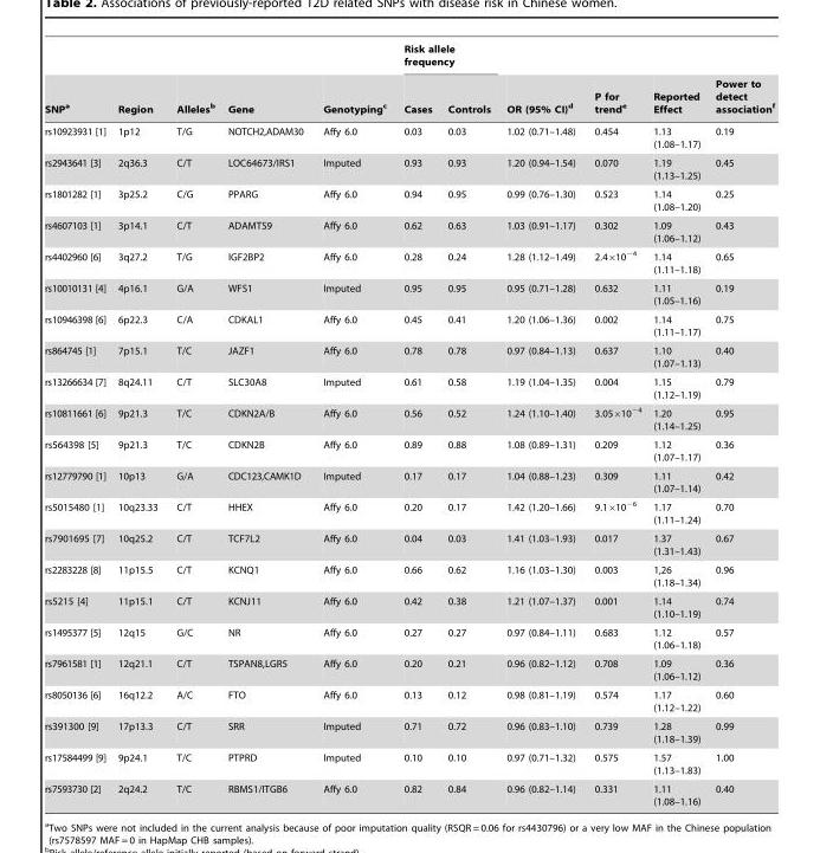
<table><thead><tr><td rowspan="2">SNP<sup>a</sup></td><td rowspan="2">Region</td><td rowspan="2">Alleles<sup>b</sup></td><td rowspan="2">Gene</td><td rowspan="2">Genotyping<sup>c</sup></td><td colspan="2">Risk allele frequency</td><td rowspan="2">OR (95% CI)<sup>d</sup></td><td rowspan="2">P for trend<sup>e</sup></td><td rowspan="2">Reported Effect</td><td rowspan="2">Power to detect association<sup>f</sup></td></tr><tr><td>Cases</td><td>Controls</td></tr></thead><tbody><tr><td>rs10923931 [1]</td><td>1p12</td><td>T/G</td><td>NOTCH2,ADAM30</td><td>Affy 6.0</td><td>0.03</td><td>0.03</td><td>1.02 (0.71–1.48)</td><td>0.454</td><td>1.13 (1.08–1.17)</td><td>0.19</td></tr><tr><td>rs2943641 [3]</td><td>2q36.3</td><td>C/T</td><td>LOC64673/IRS1</td><td>Imputed</td><td>0.93</td><td>0.93</td><td>1.20 (0.94–1.54)</td><td>0.070</td><td>1.19 (1.13–1.25)</td><td>0.45</td></tr><tr><td>rs1801282 [1]</td><td>3p25.2</td><td>C/G</td><td>PPARG</td><td>Affy 6.0</td><td>0.94</td><td>0.95</td><td>0.99 (0.76–1.30)</td><td>0.523</td><td>1.14 (1.08–1.20)</td><td>0.25</td></tr><tr><td>rs4607103 [1]</td><td>3p14.1</td><td>C/T</td><td>ADAMTS9</td><td>Affy 6.0</td><td>0.62</td><td>0.63</td><td>1.03 (0.91–1.17)</td><td>0.302</td><td>1.09 (1.06–1.12)</td><td>0.43</td></tr><tr><td>rs4402960 [6]</td><td>3q27.2</td><td>T/G</td><td>IGF2BP2</td><td>Affy 6.0</td><td>0.28</td><td>0.24</td><td>1.28 (1.12–1.49)</td><td>2.4×10<sup>−4</sup></td><td>1.14 (1.11–1.18)</td><td>0.65</td></tr><tr><td>rs10010131 [4]</td><td>4p16.1</td><td>G/A</td><td>WFS1</td><td>Imputed</td><td>0.95</td><td>0.95</td><td>0.95 (0.71–1.28)</td><td>0.632</td><td>1.11 (1.05–1.16)</td><td>0.19</td></tr><tr><td>rs10946398 [6]</td><td>6p22.3</td><td>C/A</td><td>CDKAL1</td><td>Affy 6.0</td><td>0.45</td><td>0.41</td><td>1.20 (1.06–1.36)</td><td>0.002</td><td>1.14 (1.11–1.17)</td><td>0.75</td></tr><tr><td>rs864745 [1]</td><td>7p15.1</td><td>T/C</td><td>JAZF1</td><td>Affy 6.0</td><td>0.78</td><td>0.78</td><td>0.97 (0.84–1.13)</td><td>0.637</td><td>1.10 (1.07–1.13)</td><td>0.40</td></tr><tr><td>rs13266634 [7]</td><td>8q24.11</td><td>C/T</td><td>SLC30A8</td><td>Imputed</td><td>0.61</td><td>0.58</td><td>1.19 (1.04–1.35)</td><td>0.004</td><td>1.15 (1.12–1.19)</td><td>0.79</td></tr><tr><td>rs10811661 [6]</td><td>9p21.3</td><td>T/C</td><td>CDKN2A/B</td><td>Affy 6.0</td><td>0.56</td><td>0.52</td><td>1.24 (1.10–1.40)</td><td>3.05×10<sup>−4</sup></td><td>1.20 (1.14–1.25)</td><td>0.95</td></tr><tr><td>rs564398 [5]</td><td>9p21.3</td><td>T/C</td><td>CDKN2B</td><td>Affy 6.0</td><td>0.89</td><td>0.88</td><td>1.08 (0.89–1.31)</td><td>0.209</td><td>1.12 (1.07–1.17)</td><td>0.36</td></tr><tr><td>rs12779790 [1]</td><td>10p13</td><td>G/A</td><td>CDC123,CAMK1D</td><td>Imputed</td><td>0.17</td><td>0.17</td><td>1.04 (0.88–1.23)</td><td>0.309</td><td>1.11 (1.07–1.14)</td><td>0.42</td></tr><tr><td>rs5015480 [1]</td><td>10q23.33</td><td>C/T</td><td>HHEX</td><td>Affy 6.0</td><td>0.20</td><td>0.17</td><td>1.42 (1.20–1.66)</td><td>9.1×10<sup>−6</sup></td><td>1.17 (1.11–1.24)</td><td>0.70</td></tr><tr><td>rs7901695 [7]</td><td>10q25.2</td><td>C/T</td><td>TCF7L2</td><td>Affy 6.0</td><td>0.04</td><td>0.03</td><td>1.41 (1.03–1.93)</td><td>0.017</td><td>1.37 (1.31–1.43)</td><td>0.67</td></tr><tr><td>rs2283228 [8]</td><td>11p15.5</td><td>C/T</td><td>KCNQ1</td><td>Affy 6.0</td><td>0.66</td><td>0.62</td><td>1.16 (1.03–1.30)</td><td>0.003</td><td>1,26 (1.18–1.34)</td><td>0.96</td></tr><tr><td>rs5215 [4]</td><td>11p15.1</td><td>C/T</td><td>KCNJ11</td><td>Affy 6.0</td><td>0.42</td><td>0.38</td><td>1.21 (1.07–1.37)</td><td>0.001</td><td>1.14 (1.10–1.19)</td><td>0.74</td></tr><tr><td>rs1495377 [5]</td><td>12q15</td><td>G/C</td><td>NR</td><td>Affy 6.0</td><td>0.27</td><td>0.27</td><td>0.97 (0.84–1.11)</td><td>0.683</td><td>1.12 (1.06–1.18)</td><td>0.57</td></tr><tr><td>rs7961581 [1]</td><td>12q21.1</td><td>C/T</td><td>TSPAN8,LGR5</td><td>Affy 6.0</td><td>0.20</td><td>0.21</td><td>0.96 (0.82–1.12)</td><td>0.708</td><td>1.09 (1.06–1.12)</td><td>0.36</td></tr><tr><td>rs8050136 [6]</td><td>16q12.2</td><td>A/C</td><td>FTO</td><td>Affy 6.0</td><td>0.13</td><td>0.12</td><td>0.98 (0.81–1.19)</td><td>0.574</td><td>1.17 (1.12–1.22)</td><td>0.60</td></tr><tr><td>rs391300 [9]</td><td>17p13.3</td><td>C/T</td><td>SRR</td><td>Imputed</td><td>0.71</td><td>0.72</td><td>0.96 (0.83–1.10)</td><td>0.739</td><td>1.28 (1.18–1.39)</td><td>0.99</td></tr><tr><td>rs17584499 [9]</td><td>9p24.1</td><td>T/C</td><td>PTPRD</td><td>Imputed</td><td>0.10</td><td>0.10</td><td>0.97 (0.71–1.32)</td><td>0.575</td><td>1.57 (1.13–1.83)</td><td>1.00</td></tr><tr><td>rs7593730 [2]</td><td>2q24.2</td><td>T/C</td><td>RBMS1/ITGB6</td><td>Affy 6.0</td><td>0.82</td><td>0.84</td><td>0.96 (0.82–1.14)</td><td>0.331</td><td>1.11 (1.08–1.16)</td><td>0.40</td></tr></tbody></table>